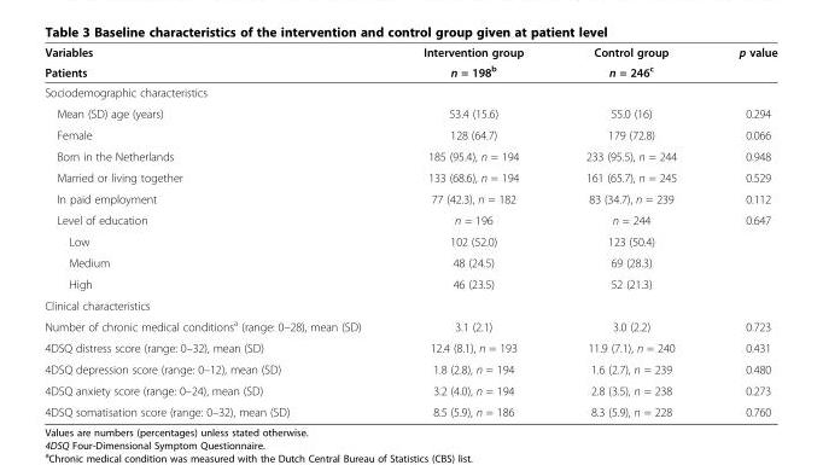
<table><thead><tr><td rowspan="2">Variables Patients</td><td rowspan="2">Intervention group n = 198<sup>b</sup></td><td rowspan="2">Control group n = 246<sup>c</sup></td><td rowspan="2">p value</td></tr><tr></tr></thead><tbody><tr><td colspan="4">Sociodemographic characteristics</td></tr><tr><td>Mean (SD) age (years)</td><td>53.4 (15.6)</td><td>55.0 (16)</td><td>0.294</td></tr><tr><td>Female</td><td>128 (64.7)</td><td>179 (72.8)</td><td>0.066</td></tr><tr><td>Born in the Netherlands</td><td>185 (95.4), n = 194</td><td>233 (95.5), n = 244</td><td>0.948</td></tr><tr><td>Married or living together</td><td>133 (68.6), n = 194</td><td>161 (65.7), n = 245</td><td>0.529</td></tr><tr><td>In paid employment</td><td>77 (42.3), n = 182</td><td>83 (34.7), n = 239</td><td>0.112</td></tr><tr><td>Level of education</td><td>n = 196</td><td>n = 244</td><td>0.647</td></tr><tr><td>Low</td><td>102 (52.0)</td><td>123 (50.4)</td><td></td></tr><tr><td>Medium</td><td>48 (24.5)</td><td>69 (28.3)</td><td></td></tr><tr><td>High</td><td>46 (23.5)</td><td>52 (21.3)</td><td></td></tr><tr><td colspan="4">Clinical characteristics</td></tr><tr><td>Number of chronic medical conditions<sup>a</sup> (range: 0–28), mean (SD)</td><td>3.1 (2.1)</td><td>3.0 (2.2)</td><td>0.723</td></tr><tr><td>4DSQ distress score (range: 0–32), mean (SD)</td><td>12.4 (8.1), n = 193</td><td>11.9 (7.1), n = 240</td><td>0.431</td></tr><tr><td>4DSQ depression score (range: 0–12), mean (SD)</td><td>1.8 (2.8), n = 194</td><td>1.6 (2.7), n = 239</td><td>0.480</td></tr><tr><td>4DSQ anxiety score (range: 0–24), mean (SD)</td><td>3.2 (4.0), n = 194</td><td>2.8 (3.5), n = 238</td><td>0.273</td></tr><tr><td>4DSQ somatisation score (range: 0–32), mean (SD)</td><td>8.5 (5.9), n = 186</td><td>8.3 (5.9), n = 228</td><td>0.760</td></tr></tbody></table>